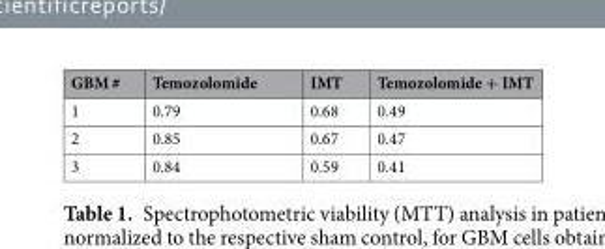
<table><thead><tr><td>GBM #</td><td>Temozolomide</td><td>IMT</td><td>Temozolomide + IMT</td></tr></thead><tbody><tr><td>1</td><td>0.79</td><td>0.68</td><td>0.49</td></tr><tr><td>2</td><td>0.85</td><td>0.67</td><td>0.47</td></tr><tr><td>3</td><td>0.84</td><td>0.59</td><td>0.41</td></tr></tbody></table>